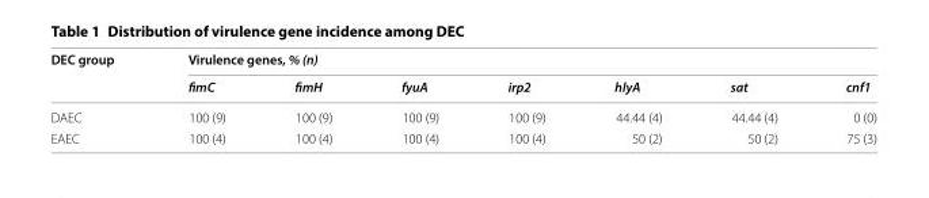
<table><thead><tr><td rowspan="2">DEC group</td><td colspan="7">Virulence genes, % (n)</td></tr><tr><td>fimC</td><td>fimH</td><td>fyuA</td><td>irp2</td><td>hlyA</td><td>sat</td><td>cnf1</td></tr></thead><tbody><tr><td>DAEC</td><td>100 (9)</td><td>100 (9)</td><td>100 (9)</td><td>100 (9)</td><td>44.44 (4)</td><td>44.44 (4)</td><td>0 (0)</td></tr><tr><td>EAEC</td><td>100 (4)</td><td>100 (4)</td><td>100 (4)</td><td>100 (4)</td><td>50 (2)</td><td>50 (2)</td><td>75 (3)</td></tr></tbody></table>